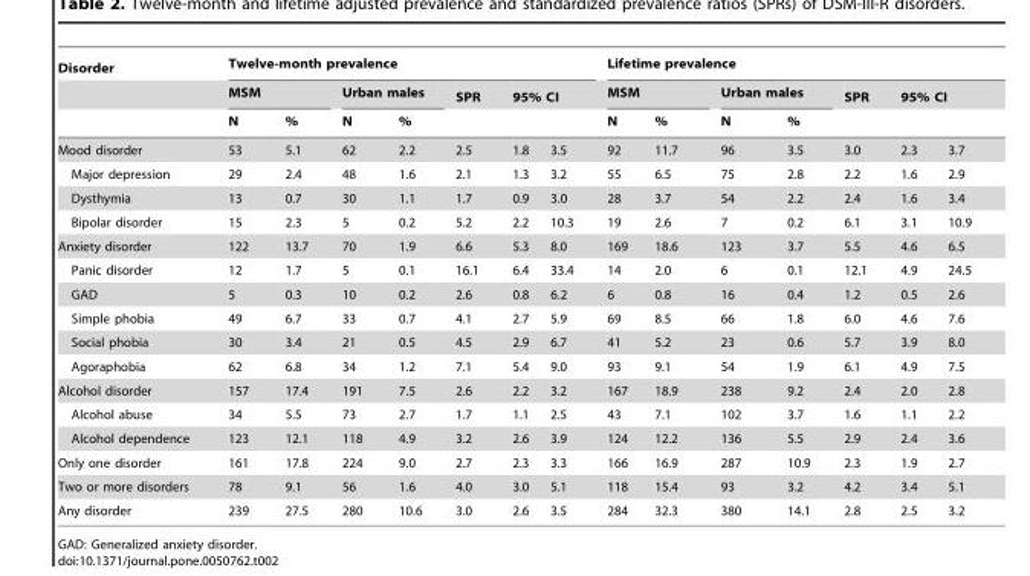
<table><thead><tr><td rowspan="3">Disorder</td><td colspan="7">Twelve-month prevalence</td><td colspan="7">Lifetime prevalence</td></tr><tr><td colspan="2">MSM</td><td colspan="2">Urban males</td><td rowspan="2">SPR</td><td colspan="2">95% CI</td><td colspan="2">MSM</td><td colspan="2">Urban males</td><td rowspan="2">SPR</td><td colspan="2">95% CI</td></tr><tr><td>N</td><td>%</td><td>N</td><td>%</td><td></td><td></td><td>N</td><td>%</td><td>N</td><td>%</td><td></td><td></td></tr></thead><tbody><tr><td>Mood disorder</td><td>53</td><td>5.1</td><td>62</td><td>2.2</td><td>2.5</td><td>1.8</td><td>3.5</td><td>92</td><td>11.7</td><td>96</td><td>3.5</td><td>3.0</td><td>2.3</td><td>3.7</td></tr><tr><td>Major depression</td><td>29</td><td>2.4</td><td>48</td><td>1.6</td><td>2.1</td><td>1.3</td><td>3.2</td><td>55</td><td>6.5</td><td>75</td><td>2.8</td><td>2.2</td><td>1.6</td><td>2.9</td></tr><tr><td>Dysthymia</td><td>13</td><td>0.7</td><td>30</td><td>1.1</td><td>1.7</td><td>0.9</td><td>3.0</td><td>28</td><td>3.7</td><td>54</td><td>2.2</td><td>2.4</td><td>1.6</td><td>3.4</td></tr><tr><td>Bipolar disorder</td><td>15</td><td>2.3</td><td>5</td><td>0.2</td><td>5.2</td><td>2.2</td><td>10.3</td><td>19</td><td>2.6</td><td>7</td><td>0.2</td><td>6.1</td><td>3.1</td><td>10.9</td></tr><tr><td>Anxiety disorder</td><td>122</td><td>13.7</td><td>70</td><td>1.9</td><td>6.6</td><td>5.3</td><td>8.0</td><td>169</td><td>18.6</td><td>123</td><td>3.7</td><td>5.5</td><td>4.6</td><td>6.5</td></tr><tr><td>Panic disorder</td><td>12</td><td>1.7</td><td>5</td><td>0.1</td><td>16.1</td><td>6.4</td><td>33.4</td><td>14</td><td>2.0</td><td>6</td><td>0.1</td><td>12.1</td><td>4.9</td><td>24.5</td></tr><tr><td>GAD</td><td>5</td><td>0.3</td><td>10</td><td>0.2</td><td>2.6</td><td>0.8</td><td>6.2</td><td>6</td><td>0.8</td><td>16</td><td>0.4</td><td>1.2</td><td>0.5</td><td>2.6</td></tr><tr><td>Simple phobia</td><td>49</td><td>6.7</td><td>33</td><td>0.7</td><td>4.1</td><td>2.7</td><td>5.9</td><td>69</td><td>8.5</td><td>66</td><td>1.8</td><td>6.0</td><td>4.6</td><td>7.6</td></tr><tr><td>Social phobia</td><td>30</td><td>3.4</td><td>21</td><td>0.5</td><td>4.5</td><td>2.9</td><td>6.7</td><td>41</td><td>5.2</td><td>23</td><td>0.6</td><td>5.7</td><td>3.9</td><td>8.0</td></tr><tr><td>Agoraphobia</td><td>62</td><td>6.8</td><td>34</td><td>1.2</td><td>7.1</td><td>5.4</td><td>9.0</td><td>93</td><td>9.1</td><td>54</td><td>1.9</td><td>6.1</td><td>4.9</td><td>7.5</td></tr><tr><td>Alcohol disorder</td><td>157</td><td>17.4</td><td>191</td><td>7.5</td><td>2.6</td><td>2.2</td><td>3.2</td><td>167</td><td>18.9</td><td>238</td><td>9.2</td><td>2.4</td><td>2.0</td><td>2.8</td></tr><tr><td>Alcohol abuse</td><td>34</td><td>5.5</td><td>73</td><td>2.7</td><td>1.7</td><td>1.1</td><td>2.5</td><td>43</td><td>7.1</td><td>102</td><td>3.7</td><td>1.6</td><td>1.1</td><td>2.2</td></tr><tr><td>Alcohol dependence</td><td>123</td><td>12.1</td><td>118</td><td>4.9</td><td>3.2</td><td>2.6</td><td>3.9</td><td>124</td><td>12.2</td><td>136</td><td>5.5</td><td>2.9</td><td>2.4</td><td>3.6</td></tr><tr><td>Only one disorder</td><td>161</td><td>17.8</td><td>224</td><td>9.0</td><td>2.7</td><td>2.3</td><td>3.3</td><td>166</td><td>16.9</td><td>287</td><td>10.9</td><td>2.3</td><td>1.9</td><td>2.7</td></tr><tr><td>Two or more disorders</td><td>78</td><td>9.1</td><td>56</td><td>1.6</td><td>4.0</td><td>3.0</td><td>5.1</td><td>118</td><td>15.4</td><td>93</td><td>3.2</td><td>4.2</td><td>3.4</td><td>5.1</td></tr><tr><td>Any disorder</td><td>239</td><td>27.5</td><td>280</td><td>10.6</td><td>3.0</td><td>2.6</td><td>3.5</td><td>284</td><td>32.3</td><td>380</td><td>14.1</td><td>2.8</td><td>2.5</td><td>3.2</td></tr></tbody></table>